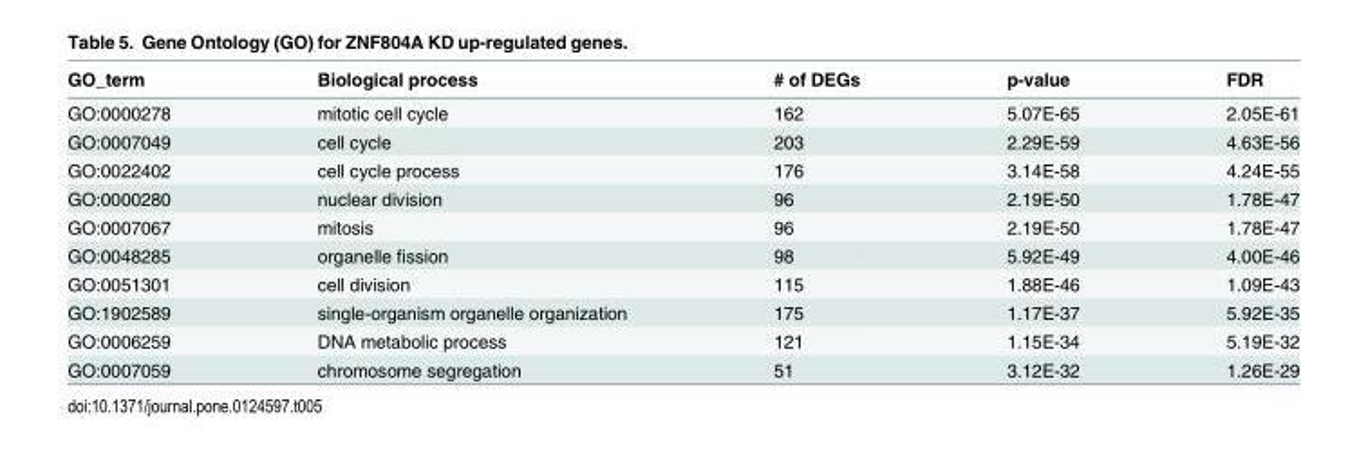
<table><thead><tr><td>GO_term</td><td>Biological process</td><td># of DEGs</td><td>p-value</td><td>FDR</td></tr></thead><tbody><tr><td>GO:0000278</td><td>mitotic cell cycle</td><td>162</td><td>5.07E-65</td><td>2.05E-61</td></tr><tr><td>GO:0007049</td><td>cell cycle</td><td>203</td><td>2.29E-59</td><td>4.63E-56</td></tr><tr><td>GO:0022402</td><td>cell cycle process</td><td>176</td><td>3.14E-58</td><td>4.24E-55</td></tr><tr><td>GO:0000280</td><td>nuclear division</td><td>96</td><td>2.19E-50</td><td>1.78E-47</td></tr><tr><td>GO:0007067</td><td>mitosis</td><td>96</td><td>2.19E-50</td><td>1.78E-47</td></tr><tr><td>GO:0048285</td><td>organelle fission</td><td>98</td><td>5.92E-49</td><td>4.00E-46</td></tr><tr><td>GO:0051301</td><td>cell division</td><td>115</td><td>1.88E-46</td><td>1.09E-43</td></tr><tr><td>GO:1902589</td><td>single-organism organelle organization</td><td>175</td><td>1.17E-37</td><td>5.92E-35</td></tr><tr><td>GO:0006259</td><td>DNA metabolic process</td><td>121</td><td>1.15E-34</td><td>5.19E-32</td></tr><tr><td>GO:0007059</td><td>chromosome segregation</td><td>51</td><td>3.12E-32</td><td>1.26E-29</td></tr></tbody></table>